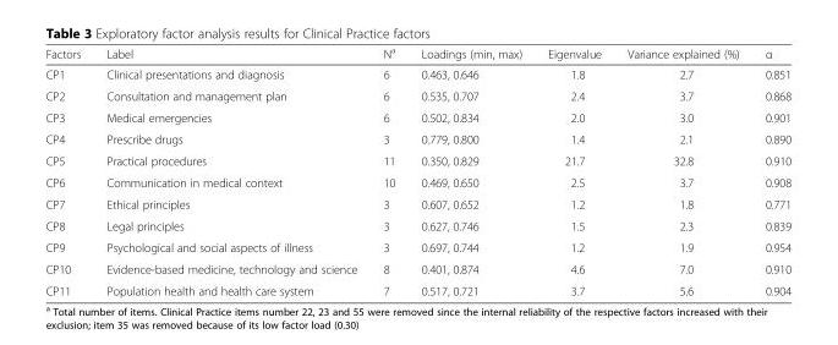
<table><thead><tr><td>Factors</td><td>Label</td><td>N<sup>a</sup></td><td>Loadings (min, max)</td><td>Eigenvalue</td><td>Variance explained (%)</td><td>α</td></tr></thead><tbody><tr><td>CP1</td><td>Clinical presentations and diagnosis</td><td>6</td><td>0.463, 0.646</td><td>1.8</td><td>2.7</td><td>0.851</td></tr><tr><td>CP2</td><td>Consultation and management plan</td><td>6</td><td>0.535, 0.707</td><td>2.4</td><td>3.7</td><td>0.868</td></tr><tr><td>CP3</td><td>Medical emergencies</td><td>6</td><td>0.502, 0.834</td><td>2.0</td><td>3.0</td><td>0.901</td></tr><tr><td>CP4</td><td>Prescribe drugs</td><td>3</td><td>0.779, 0.800</td><td>1.4</td><td>2.1</td><td>0.890</td></tr><tr><td>CP5</td><td>Practical procedures</td><td>11</td><td>0.350, 0.829</td><td>21.7</td><td>32.8</td><td>0.910</td></tr><tr><td>CP6</td><td>Communication in medical context</td><td>10</td><td>0.469, 0.650</td><td>2.5</td><td>3.7</td><td>0.908</td></tr><tr><td>CP7</td><td>Ethical principles</td><td>3</td><td>0.607, 0.652</td><td>1.2</td><td>1.8</td><td>0.771</td></tr><tr><td>CP8</td><td>Legal principles</td><td>3</td><td>0.627, 0.746</td><td>1.5</td><td>2.3</td><td>0.839</td></tr><tr><td>CP9</td><td>Psychological and social aspects of illness</td><td>3</td><td>0.697, 0.744</td><td>1.2</td><td>1.9</td><td>0.954</td></tr><tr><td>CP10</td><td>Evidence-based medicine, technology and science</td><td>8</td><td>0.401, 0.874</td><td>4.6</td><td>7.0</td><td>0.910</td></tr><tr><td>CP11</td><td>Population health and health care system</td><td>7</td><td>0.517, 0.721</td><td>3.7</td><td>5.6</td><td>0.904</td></tr></tbody></table>